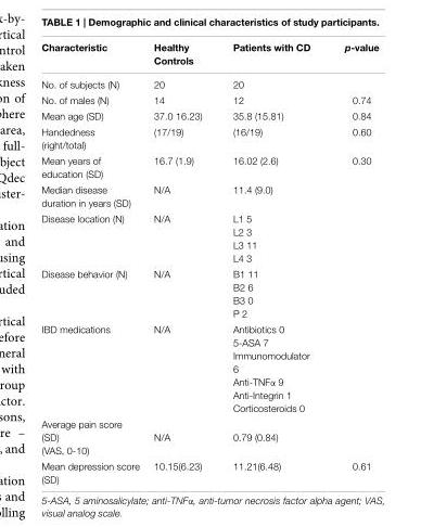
<table><thead><tr><td>Characteristic</td><td>Healthy Controls</td><td>Patients with CD</td><td>p-value</td></tr></thead><tbody><tr><td>No. of subjects (N)</td><td>20</td><td>20</td><td></td></tr><tr><td>No. of males (N)</td><td>14</td><td>12</td><td>0.74</td></tr><tr><td>Mean age (SD)</td><td>37.0 16.23)</td><td>35.8 (15.81)</td><td>0.84</td></tr><tr><td>Handedness (right/total)</td><td>(17/19)</td><td>(16/19)</td><td>0.60</td></tr><tr><td>Mean years of education (SD)</td><td>16.7 (1.9)</td><td>16.02 (2.6)</td><td>0.30</td></tr><tr><td>Median disease duration in years (SD)</td><td>N/A</td><td>11.4 (9.0)</td><td></td></tr><tr><td>Disease location (N)</td><td>N/A</td><td>L1 5 L2 3 L3 11 L4 3</td><td></td></tr><tr><td>Disease behavior (N)</td><td>N/A</td><td>B1 11 B2 6 B3 0 P 2</td><td></td></tr><tr><td>IBD medications</td><td>N/A</td><td>Antibiotics 0 5-ASA 7 Immunomodulator 6 Anti-TNFα 9 Anti-Integrin 1 Corticosteroids 0</td><td></td></tr><tr><td>Average pain score (SD) (VAS, 0-10)</td><td>N/A</td><td>0.79 (0.84)</td><td></td></tr><tr><td>Mean depression score (SD)</td><td>10.15(6.23)</td><td>11.21(6.48)</td><td>0.61</td></tr></tbody></table>